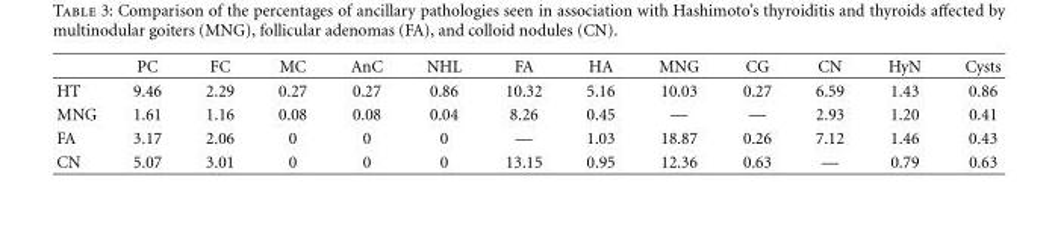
<table><thead><tr><td></td><td>PC</td><td>FC</td><td>MC</td><td>AnC</td><td>NHL</td><td>FA</td><td>HA</td><td>MNG</td><td>CG</td><td>CN</td><td>HyN</td><td>Cysts</td></tr></thead><tbody><tr><td>HT</td><td>9.46</td><td>2.29</td><td>0.27</td><td>0.27</td><td>0.86</td><td>10.32</td><td>5.16</td><td>10.03</td><td>0.27</td><td>6.59</td><td>1.43</td><td>0.86</td></tr><tr><td>MNG</td><td>1.61</td><td>1.16</td><td>0.08</td><td>0.08</td><td>0.04</td><td>8.26</td><td>0.45</td><td>—</td><td>—</td><td>2.93</td><td>1.20</td><td>0.41</td></tr><tr><td>FA</td><td>3.17</td><td>2.06</td><td>0</td><td>0</td><td>0</td><td>—</td><td>1.03</td><td>18.87</td><td>0.26</td><td>7.12</td><td>1.46</td><td>0.43</td></tr><tr><td>CN</td><td>5.07</td><td>3.01</td><td>0</td><td>0</td><td>0</td><td>13.15</td><td>0.95</td><td>12.36</td><td>0.63</td><td>—</td><td>0.79</td><td>0.63</td></tr></tbody></table>